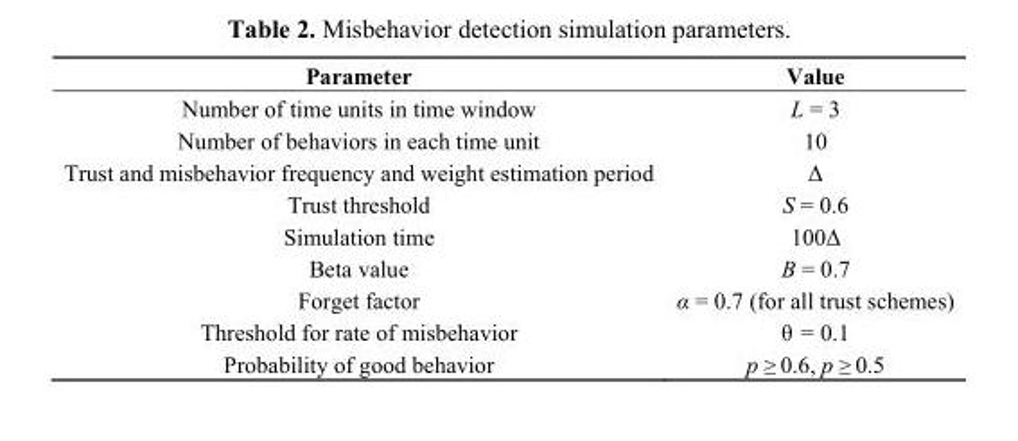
<table><thead><tr><td>Parameter</td><td>Value</td></tr></thead><tbody><tr><td>Number of time units in time window</td><td>L = 3</td></tr><tr><td>Number of behaviors in each time unit</td><td>10</td></tr><tr><td>Trust and misbehavior frequency and weight estimation period</td><td>Δ</td></tr><tr><td>Trust threshold</td><td>S = 0.6</td></tr><tr><td>Simulation time</td><td>100Δ</td></tr><tr><td>Beta value</td><td>Β = 0.7</td></tr><tr><td>Forget factor</td><td>α = 0.7 (for all trust schemes)</td></tr><tr><td>Threshold for rate of misbehavior</td><td>θ = 0.1</td></tr><tr><td>Probability of good behavior</td><td>p ≥ 0.6, p ≥ 0.5</td></tr></tbody></table>